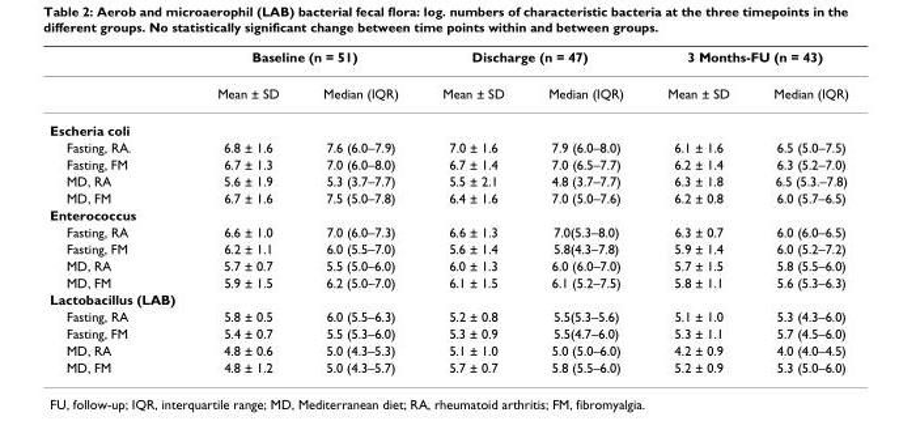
<table><thead><tr><td rowspan="2"></td><td colspan="2">Baseline (n = 51)</td><td colspan="2">Discharge (n = 47)</td><td colspan="2">3 Months-FU (n = 43)</td></tr><tr><td>Mean ± SD</td><td>Median (IQR)</td><td>Mean ± SD</td><td>Median (IQR)</td><td>Mean ± SD</td><td>Median (IQR)</td></tr></thead><tbody><tr><td colspan="7">Escheria coli</td></tr><tr><td>Fasting, RA.</td><td>6.8 ± 1.6</td><td>7.6 (6.0–7.9)</td><td>7.0 ± 1.6</td><td>7.9 (6.0–8.0)</td><td>6.1 ± 1.6</td><td>6.5 (5.0–7.5)</td></tr><tr><td>Fasting, FM</td><td>6.7 ± 1.3</td><td>7.0 (6.0–8.0)</td><td>6.7 ± 1.4</td><td>7.0 (6.5–7.7)</td><td>6.2 ± 1.4</td><td>6.3 (5.2–7.0)</td></tr><tr><td>MD, RA</td><td>5.6 ± 1.9</td><td>5.3 (3.7–7.7)</td><td>5.5 ± 2.1</td><td>4.8 (3.7–7.7)</td><td>6.3 ± 1.8</td><td>6.5 (5.3.–7.8)</td></tr><tr><td>MD, FM</td><td>6.7 ± 1.6</td><td>7.5 (5.0–7.8)</td><td>6.4 ± 1.6</td><td>7.0 (5.0–7.6)</td><td>6.2 ± 0.8</td><td>6.0 (5.7–6.5)</td></tr><tr><td colspan="7">Enterococcus</td></tr><tr><td>Fasting, RA</td><td>6.6 ± 1.0</td><td>7.0 (6.0–7.3)</td><td>6.6 ± 1.3</td><td>7.0(5.3–8.0)</td><td>6.3 ± 0.7</td><td>6.0 (6.0–6.5)</td></tr><tr><td>Fasting, FM</td><td>6.2 ± 1.1</td><td>6.0 (5.5–7.0)</td><td>5.6 ± 1.4</td><td>5.8(4.3–7.8)</td><td>5.9 ± 1.4</td><td>6.0 (5.2–7.2)</td></tr><tr><td>MD, RA</td><td>5.7 ± 0.7</td><td>5.5 (5.0–6.0)</td><td>6.0 ± 1.3</td><td>6.0 (6.0–7.0)</td><td>5.7 ± 1.5</td><td>5.8 (5.5–6.0)</td></tr><tr><td>MD, FM</td><td>5.9 ± 1.5</td><td>6.2 (5.0–7.0)</td><td>6.1 ± 1.5</td><td>6.1 (5.2–7.5)</td><td>5.8 ± 1.1</td><td>5.6 (5.3–6.3)</td></tr><tr><td colspan="7">Lactobacillus (LAB)</td></tr><tr><td>Fasting, RA</td><td>5.8 ± 0.5</td><td>6.0 (5.5–6.3)</td><td>5.2 ± 0.8</td><td>5.5(5.3–5.6)</td><td>5.1 ± 1.0</td><td>5.3 (4.3–6.0)</td></tr><tr><td>Fasting, FM</td><td>5.4 ± 0.7</td><td>5.5 (5.3–6.0)</td><td>5.3 ± 0.9</td><td>5.5(4.7–6.0)</td><td>5.3 ± 1.1</td><td>5.7 (4.5–6.0)</td></tr><tr><td>MD, RA</td><td>4.8 ± 0.6</td><td>5.0 (4.3–5.3)</td><td>5.1 ± 1.0</td><td>5.0 (5.0–6.0)</td><td>4.2 ± 0.9</td><td>4.0 (4.0–4.5)</td></tr><tr><td>MD, FM</td><td>4.8 ± 1.2</td><td>5.0 (4.3–5.7)</td><td>5.7 ± 0.7</td><td>5.8 (5.5–6.0)</td><td>5.2 ± 0.9</td><td>5.3 (5.0–6.0)</td></tr></tbody></table>